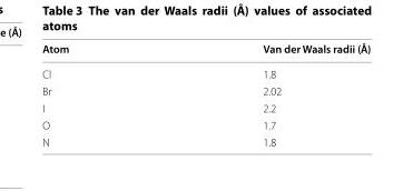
<table><thead><tr><td>Atom</td><td>Van der Waals radii (Å)</td></tr></thead><tbody><tr><td>Cl</td><td>1.8</td></tr><tr><td>Br</td><td>2.02</td></tr><tr><td>I</td><td>2.2</td></tr><tr><td>O</td><td>1.7</td></tr><tr><td>N</td><td>1.8</td></tr></tbody></table>